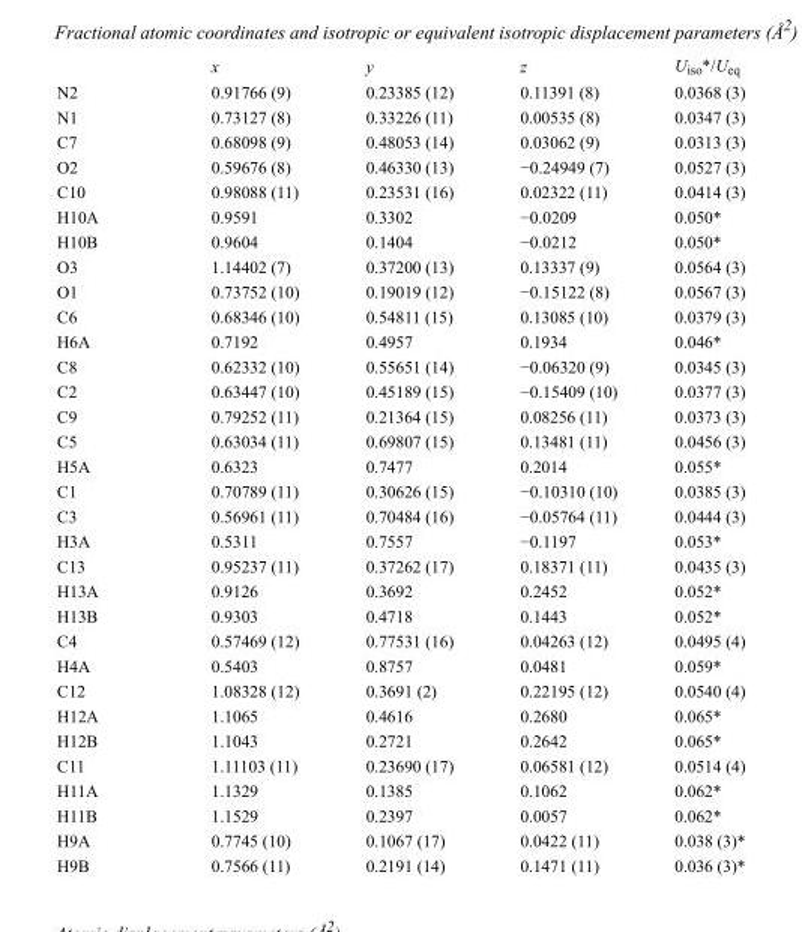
<table><thead><tr><td></td><td>x</td><td>y</td><td>z</td><td>U<sub>iso</sub>*/U<sub>eq</sub></td></tr></thead><tbody><tr><td>N2</td><td>0.91766 (9)</td><td>0.23385 (12)</td><td>0.11391 (8)</td><td>0.0368 (3)</td></tr><tr><td>N1</td><td>0.73127 (8)</td><td>0.33226 (11)</td><td>0.00535 (8)</td><td>0.0347 (3)</td></tr><tr><td>C7</td><td>0.68098 (9)</td><td>0.48053 (14)</td><td>0.03062 (9)</td><td>0.0313 (3)</td></tr><tr><td>O2</td><td>0.59676 (8)</td><td>0.46330 (13)</td><td>−0.24949 (7)</td><td>0.0527 (3)</td></tr><tr><td>C10</td><td>0.98088 (11)</td><td>0.23531 (16)</td><td>0.02322 (11)</td><td>0.0414 (3)</td></tr><tr><td>H10A</td><td>0.9591</td><td>0.3302</td><td>−0.0209</td><td>0.050*</td></tr><tr><td>H10B</td><td>0.9604</td><td>0.1404</td><td>−0.0212</td><td>0.050*</td></tr><tr><td>O3</td><td>1.14402 (7)</td><td>0.37200 (13)</td><td>0.13337 (9)</td><td>0.0564 (3)</td></tr><tr><td>O1</td><td>0.73752 (10)</td><td>0.19019 (12)</td><td>−0.15122 (8)</td><td>0.0567 (3)</td></tr><tr><td>C6</td><td>0.68346 (10)</td><td>0.54811 (15)</td><td>0.13085 (10)</td><td>0.0379 (3)</td></tr><tr><td>H6A</td><td>0.7192</td><td>0.4957</td><td>0.1934</td><td>0.046*</td></tr><tr><td>C8</td><td>0.62332 (10)</td><td>0.55651 (14)</td><td>−0.06320 (9)</td><td>0.0345 (3)</td></tr><tr><td>C2</td><td>0.63447 (10)</td><td>0.45189 (15)</td><td>−0.15409 (10)</td><td>0.0377 (3)</td></tr><tr><td>C9</td><td>0.79252 (11)</td><td>0.21364 (15)</td><td>0.08256 (11)</td><td>0.0373 (3)</td></tr><tr><td>C5</td><td>0.63034 (11)</td><td>0.69807 (15)</td><td>0.13481 (11)</td><td>0.0456 (3)</td></tr><tr><td>H5A</td><td>0.6323</td><td>0.7477</td><td>0.2014</td><td>0.055*</td></tr><tr><td>C1</td><td>0.70789 (11)</td><td>0.30626 (15)</td><td>−0.10310 (10)</td><td>0.0385 (3)</td></tr><tr><td>C3</td><td>0.56961 (11)</td><td>0.70484 (16)</td><td>−0.05764 (11)</td><td>0.0444 (3)</td></tr><tr><td>H3A</td><td>0.5311</td><td>0.7557</td><td>−0.1197</td><td>0.053*</td></tr><tr><td>C13</td><td>0.95237 (11)</td><td>0.37262 (17)</td><td>0.18371 (11)</td><td>0.0435 (3)</td></tr><tr><td>H13A</td><td>0.9126</td><td>0.3692</td><td>0.2452</td><td>0.052*</td></tr><tr><td>H13B</td><td>0.9303</td><td>0.4718</td><td>0.1443</td><td>0.052*</td></tr><tr><td>C4</td><td>0.57469 (12)</td><td>0.77531 (16)</td><td>0.04263 (12)</td><td>0.0495 (4)</td></tr><tr><td>H4A</td><td>0.5403</td><td>0.8757</td><td>0.0481</td><td>0.059*</td></tr><tr><td>C12</td><td>1.08328 (12)</td><td>0.3691 (2)</td><td>0.22195 (12)</td><td>0.0540 (4)</td></tr><tr><td>H12A</td><td>1.1065</td><td>0.4616</td><td>0.2680</td><td>0.065*</td></tr><tr><td>H12B</td><td>1.1043</td><td>0.2721</td><td>0.2642</td><td>0.065*</td></tr><tr><td>C11</td><td>1.11103 (11)</td><td>0.23690 (17)</td><td>0.06581 (12)</td><td>0.0514 (4)</td></tr><tr><td>H11A</td><td>1.1329</td><td>0.1385</td><td>0.1062</td><td>0.062*</td></tr><tr><td>H11B</td><td>1.1529</td><td>0.2397</td><td>0.0057</td><td>0.062*</td></tr><tr><td>H9A</td><td>0.7745 (10)</td><td>0.1067 (17)</td><td>0.0422 (11)</td><td>0.038 (3)*</td></tr><tr><td>H9B</td><td>0.7566 (11)</td><td>0.2191 (14)</td><td>0.1471 (11)</td><td>0.036 (3)*</td></tr></tbody></table>